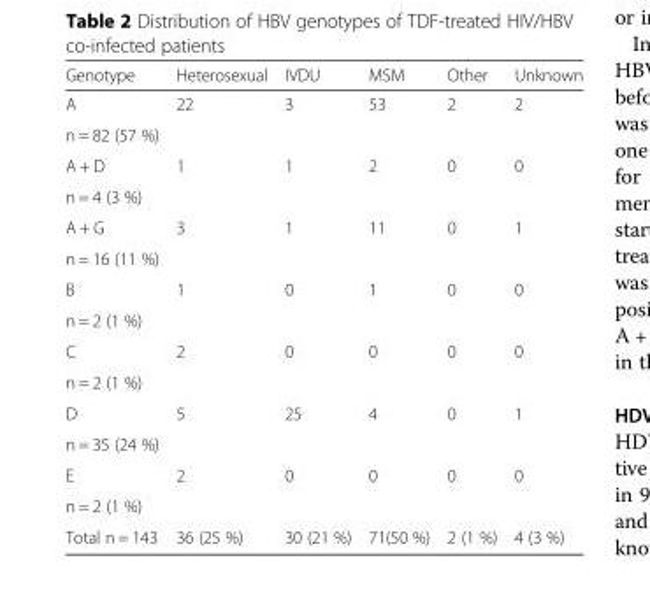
<table><thead><tr><td>Genotype</td><td>Heterosexual</td><td>IVDU</td><td>MSM</td><td>Other</td><td>Unknown</td></tr></thead><tbody><tr><td>A</td><td rowspan="2">22</td><td rowspan="2">3</td><td rowspan="2">53</td><td rowspan="2">2</td><td rowspan="2">2</td></tr><tr><td>n = 82 (57 %)</td></tr><tr><td>A + D</td><td rowspan="2">1</td><td rowspan="2">1</td><td rowspan="2">2</td><td rowspan="2">0</td><td rowspan="2">0</td></tr><tr><td>n = 4 (3 %)</td></tr><tr><td>A + G</td><td rowspan="2">3</td><td rowspan="2">1</td><td rowspan="2">11</td><td rowspan="2">0</td><td rowspan="2">1</td></tr><tr><td>n = 16 (11 %)</td></tr><tr><td>B</td><td rowspan="2">1</td><td rowspan="2">0</td><td rowspan="2">1</td><td rowspan="2">0</td><td rowspan="2">0</td></tr><tr><td>n = 2 (1 %)</td></tr><tr><td>C</td><td rowspan="2">2</td><td rowspan="2">0</td><td rowspan="2">0</td><td rowspan="2">0</td><td rowspan="2">0</td></tr><tr><td>n = 2 (1 %)</td></tr><tr><td>D</td><td rowspan="2">5</td><td rowspan="2">25</td><td rowspan="2">4</td><td rowspan="2">0</td><td rowspan="2">1</td></tr><tr><td>n = 35 (24 %)</td></tr><tr><td>E</td><td rowspan="2">2</td><td rowspan="2">0</td><td rowspan="2">0</td><td rowspan="2">0</td><td rowspan="2">0</td></tr><tr><td>n = 2 (1 %)</td></tr><tr><td>Total n = 143</td><td>36 (25 %)</td><td>30 (21 %)</td><td>71(50 %)</td><td>2 (1 %)</td><td>4 (3 %)</td></tr></tbody></table>